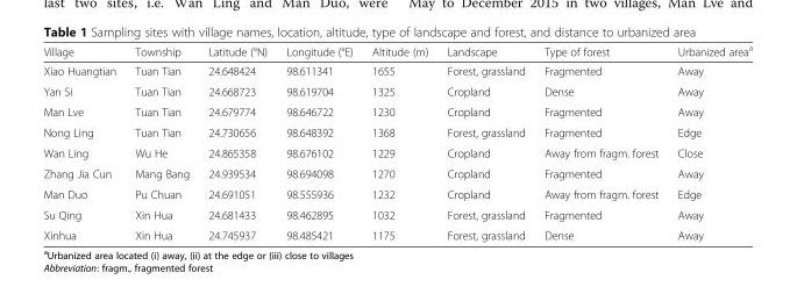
<table><thead><tr><td>Village</td><td>Township</td><td>Latitude (°N)</td><td>Longitude (°E)</td><td>Altitude (m)</td><td>Landscape</td><td>Type of forest</td><td>Urbanized area<sup>a</sup></td></tr></thead><tbody><tr><td>Xiao Huangtian</td><td>Tuan Tian</td><td>24.648424</td><td>98.611341</td><td>1655</td><td>Forest, grassland</td><td>Fragmented</td><td>Away</td></tr><tr><td>Yan Si</td><td>Tuan Tian</td><td>24.668723</td><td>98.619704</td><td>1325</td><td>Cropland</td><td>Dense</td><td>Away</td></tr><tr><td>Man Lve</td><td>Tuan Tian</td><td>24.679774</td><td>98.646722</td><td>1230</td><td>Cropland</td><td>Fragmented</td><td>Away</td></tr><tr><td>Nong Ling</td><td>Tuan Tian</td><td>24.730656</td><td>98.648392</td><td>1368</td><td>Forest, grassland</td><td>Fragmented</td><td>Edge</td></tr><tr><td>Wan Ling</td><td>Wu He</td><td>24.865358</td><td>98.676102</td><td>1229</td><td>Cropland</td><td>Away from fragm. forest</td><td>Close</td></tr><tr><td>Zhang Jia Cun</td><td>Mang Bang</td><td>24.939534</td><td>98.694098</td><td>1270</td><td>Cropland</td><td>Fragmented</td><td>Away</td></tr><tr><td>Man Duo</td><td>Pu Chuan</td><td>24.691051</td><td>98.555936</td><td>1232</td><td>Cropland</td><td>Away from fragm. forest</td><td>Edge</td></tr><tr><td>Su Qing</td><td>Xin Hua</td><td>24.681433</td><td>98.462895</td><td>1032</td><td>Forest, grassland</td><td>Fragmented</td><td>Away</td></tr><tr><td>Xinhua</td><td>Xin Hua</td><td>24.745937</td><td>98.485421</td><td>1175</td><td>Forest, grassland</td><td>Dense</td><td>Away</td></tr></tbody></table>